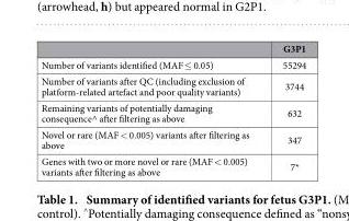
<table><thead><tr><td></td><td>G3P1</td></tr></thead><tbody><tr><td>Number of variants identified (MAF ≤ 0.05)</td><td>55294</td></tr><tr><td>Number of variants after QC (including exclusion of platform-related artefact and poor quality variants)</td><td>3744</td></tr><tr><td>Remaining variants of potentially damaging consequence^ after filtering as above</td><td>632</td></tr><tr><td>Novel or rare (MAF &lt; 0.005) variants after filtering as above</td><td>347</td></tr><tr><td>Genes with two or more novel or rare (MAF &lt; 0.005) variants after filtering as above</td><td>7*</td></tr></tbody></table>